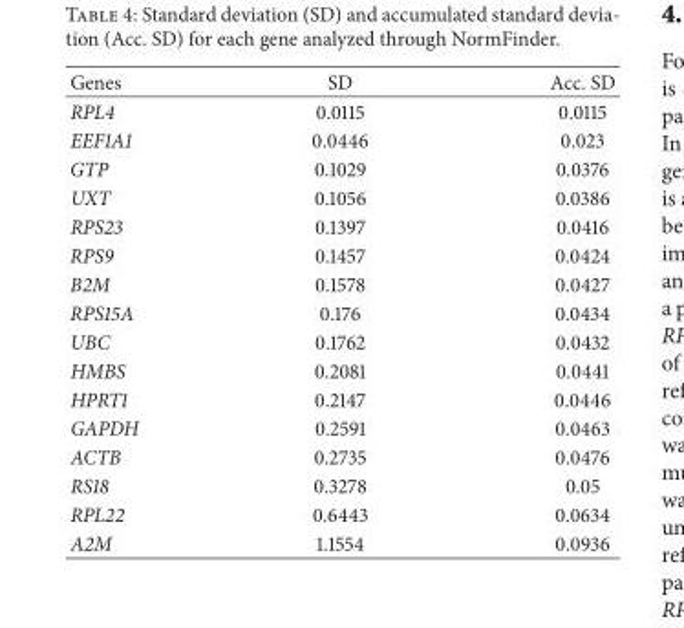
<table><thead><tr><td>Genes</td><td>SD</td><td>Acc. SD</td></tr></thead><tbody><tr><td>RPL4</td><td>0.0115</td><td>0.0115</td></tr><tr><td>EEF1A1</td><td>0.0446</td><td>0.023</td></tr><tr><td>GTP</td><td>0.1029</td><td>0.0376</td></tr><tr><td>UXT</td><td>0.1056</td><td>0.0386</td></tr><tr><td>RPS23</td><td>0.1397</td><td>0.0416</td></tr><tr><td>RPS9</td><td>0.1457</td><td>0.0424</td></tr><tr><td>B2M</td><td>0.1578</td><td>0.0427</td></tr><tr><td>RPS15A</td><td>0.176</td><td>0.0434</td></tr><tr><td>UBC</td><td>0.1762</td><td>0.0432</td></tr><tr><td>HMBS</td><td>0.2081</td><td>0.0441</td></tr><tr><td>HPRT1</td><td>0.2147</td><td>0.0446</td></tr><tr><td>GAPDH</td><td>0.2591</td><td>0.0463</td></tr><tr><td>ACTB</td><td>0.2735</td><td>0.0476</td></tr><tr><td>RS18</td><td>0.3278</td><td>0.05</td></tr><tr><td>RPL22</td><td>0.6443</td><td>0.0634</td></tr><tr><td>A2M</td><td>1.1554</td><td>0.0936</td></tr></tbody></table>